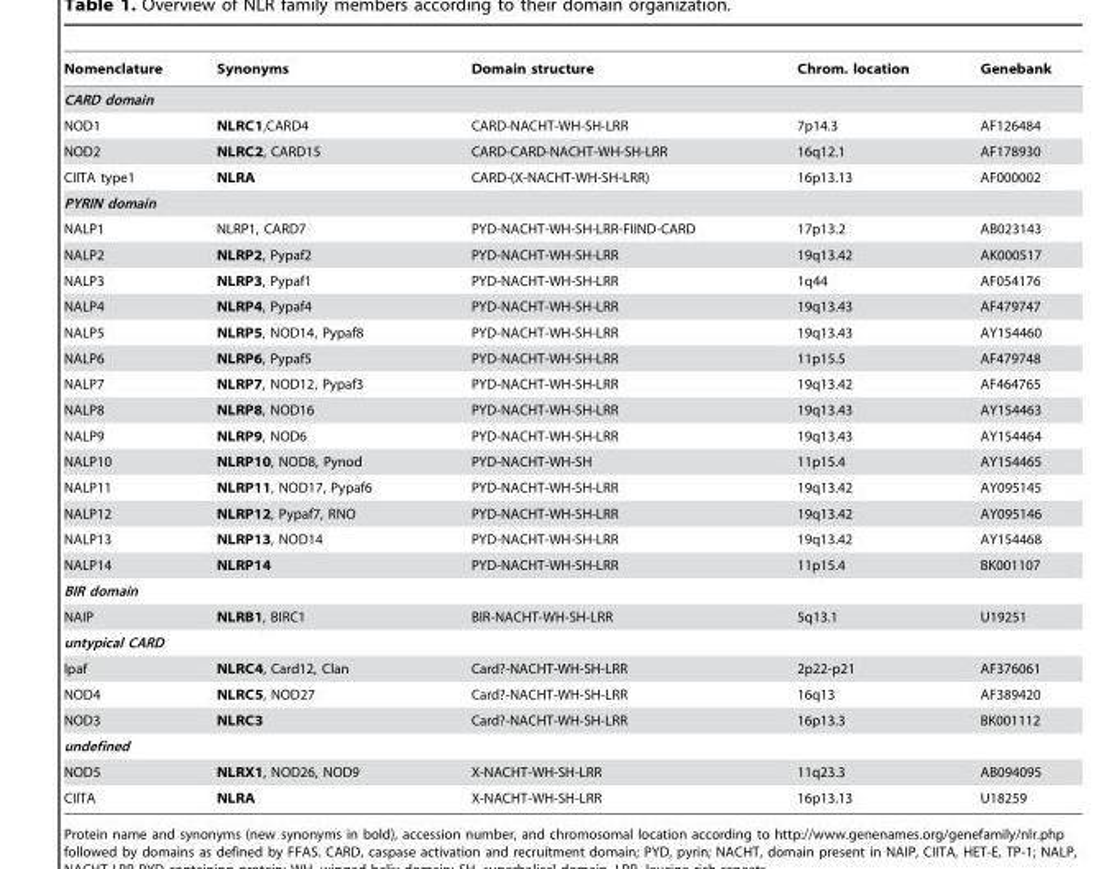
<table><thead><tr><td>Nomenclature</td><td>Synonyms</td><td>Domain structure</td><td>Chrom. location</td><td>Genebank</td></tr></thead><tbody><tr><td colspan="5">CARD domain</td></tr><tr><td>NOD1</td><td>NLRC1,CARD4</td><td>CARD-NACHT-WH-SH-LRR</td><td>7p14.3</td><td>AF126484</td></tr><tr><td>NOD2</td><td>NLRC2, CARD15</td><td>CARD-CARD-NACHT-WH-SH-LRR</td><td>16q12.1</td><td>AF178930</td></tr><tr><td>CIITA type1</td><td>NLRA</td><td>CARD-(X-NACHT-WH-SH-LRR)</td><td>16p13.13</td><td>AF000002</td></tr><tr><td colspan="5">PYRIN domain</td></tr><tr><td>NALP1</td><td>NLRP1, CARD7</td><td>PYD-NACHT-WH-SH-LRR-FIIND-CARD</td><td>17p13.2</td><td>AB023143</td></tr><tr><td>NALP2</td><td>NLRP2, Pypaf2</td><td>PYD-NACHT-WH-SH-LRR</td><td>19q13.42</td><td>AK000517</td></tr><tr><td>NALP3</td><td>NLRP3, Pypaf1</td><td>PYD-NACHT-WH-SH-LRR</td><td>1q44</td><td>AF054176</td></tr><tr><td>NALP4</td><td>NLRP4, Pypaf4</td><td>PYD-NACHT-WH-SH-LRR</td><td>19q13.43</td><td>AF479747</td></tr><tr><td>NALP5</td><td>NLRP5, NOD14, Pypaf8</td><td>PYD-NACHT-WH-SH-LRR</td><td>19q13.43</td><td>AY154460</td></tr><tr><td>NALP6</td><td>NLRP6, Pypaf5</td><td>PYD-NACHT-WH-SH-LRR</td><td>11p15.5</td><td>AF479748</td></tr><tr><td>NALP7</td><td>NLRP7, NOD12, Pypaf3</td><td>PYD-NACHT-WH-SH-LRR</td><td>19q13.42</td><td>AF464765</td></tr><tr><td>NALP8</td><td>NLRP8, NOD16</td><td>PYD-NACHT-WH-SH-LRR</td><td>19q13.43</td><td>AY154463</td></tr><tr><td>NALP9</td><td>NLRP9, NOD6</td><td>PYD-NACHT-WH-SH-LRR</td><td>19q13.43</td><td>AY154464</td></tr><tr><td>NALP10</td><td>NLRP10, NOD8, Pynod</td><td>PYD-NACHT-WH-SH</td><td>11p15.4</td><td>AY154465</td></tr><tr><td>NALP11</td><td>NLRP11, NOD17, Pypaf6</td><td>PYD-NACHT-WH-SH-LRR</td><td>19q13.42</td><td>AY095145</td></tr><tr><td>NALP12</td><td>NLRP12, Pypaf7, RNO</td><td>PYD-NACHT-WH-SH-LRR</td><td>19q13.42</td><td>AY095146</td></tr><tr><td>NALP13</td><td>NLRP13, NOD14</td><td>PYD-NACHT-WH-SH-LRR</td><td>19q13.42</td><td>AY154468</td></tr><tr><td>NALP14</td><td>NLRP14</td><td>PYD-NACHT-WH-SH-LRR</td><td>11p15.4</td><td>BK001107</td></tr><tr><td colspan="5">BIR domain</td></tr><tr><td>NAIP</td><td>NLRB1, BIRC1</td><td>BIR-NACHT-WH-SH-LRR</td><td>5q13.1</td><td>U19251</td></tr><tr><td colspan="5">untypical CARD</td></tr><tr><td>Ipaf</td><td>NLRC4, Card12, Clan</td><td>Card?-NACHT-WH-SH-LRR</td><td>2p22-p21</td><td>AF376061</td></tr><tr><td>NOD4</td><td>NLRC5, NOD27</td><td>Card?-NACHT-WH-SH-LRR</td><td>16q13</td><td>AF389420</td></tr><tr><td>NOD3</td><td>NLRC3</td><td>Card?-NACHT-WH-SH-LRR</td><td>16p13.3</td><td>BK001112</td></tr><tr><td colspan="5">undefined</td></tr><tr><td>NOD5</td><td>NLRX1, NOD26, NOD9</td><td>X-NACHT-WH-SH-LRR</td><td>11q23.3</td><td>AB094095</td></tr><tr><td>CIITA</td><td>NLRA</td><td>X-NACHT-WH-SH-LRR</td><td>16p13.13</td><td>U18259</td></tr></tbody></table>